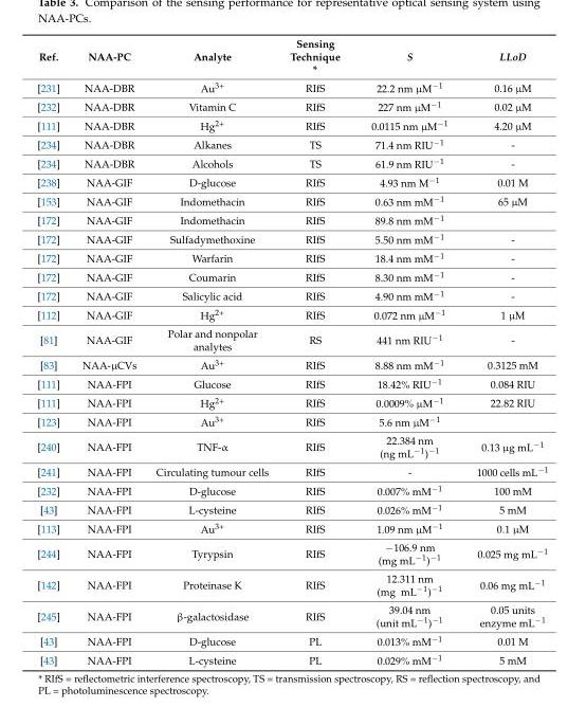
<table><thead><tr><td>Ref.</td><td>NAA-PC</td><td>Analyte</td><td>Sensing Technique *</td><td>S</td><td>LLoD</td></tr></thead><tbody><tr><td>[231]</td><td>NAA-DBR</td><td>Au<sup>3+</sup></td><td>RIfS</td><td>22.2 nm µM<sup>−1</sup></td><td>0.16 µM</td></tr><tr><td>[232]</td><td>NAA-DBR</td><td>Vitamin C</td><td>RIfS</td><td>227 nm µM<sup>−1</sup></td><td>0.02 µM</td></tr><tr><td>[111]</td><td>NAA-DBR</td><td>Hg<sup>2+</sup></td><td>RIfS</td><td>0.0115 nm µM<sup>−1</sup></td><td>4.20 µM</td></tr><tr><td>[234]</td><td>NAA-DBR</td><td>Alkanes</td><td>TS</td><td>71.4 nm RIU<sup>−1</sup></td><td>-</td></tr><tr><td>[234]</td><td>NAA-DBR</td><td>Alcohols</td><td>TS</td><td>61.9 nm RIU<sup>−1</sup></td><td>-</td></tr><tr><td>[238]</td><td>NAA-GIF</td><td>D-glucose</td><td>RIfS</td><td>4.93 nm M<sup>−1</sup></td><td>0.01 M</td></tr><tr><td>[153]</td><td>NAA-GIF</td><td>Indomethacin</td><td>RIfS</td><td>0.63 nm mM<sup>−1</sup></td><td>65 µM</td></tr><tr><td>[172]</td><td>NAA-GIF</td><td>Indomethacin</td><td>RIfS</td><td>89.8 nm mM<sup>−1</sup></td><td></td></tr><tr><td>[172]</td><td>NAA-GIF</td><td>Sulfadymethoxine</td><td>RIfS</td><td>5.50 nm mM<sup>−1</sup></td><td>-</td></tr><tr><td>[172]</td><td>NAA-GIF</td><td>Warfarin</td><td>RIfS</td><td>18.4 nm mM<sup>−1</sup></td><td>-</td></tr><tr><td>[172]</td><td>NAA-GIF</td><td>Coumarin</td><td>RIfS</td><td>8.30 nm mM<sup>−1</sup></td><td>-</td></tr><tr><td>[172]</td><td>NAA-GIF</td><td>Salicylic acid</td><td>RIfS</td><td>4.90 nm mM<sup>−1</sup></td><td>-</td></tr><tr><td>[112]</td><td>NAA-GIF</td><td>Hg<sup>2+</sup></td><td>RIfS</td><td>0.072 nm µM<sup>−1</sup></td><td>1 µM</td></tr><tr><td>[81]</td><td>NAA-GIF</td><td>Polar and nonpolar analytes</td><td>RS</td><td>441 nm RIU<sup>−1</sup></td><td>-</td></tr><tr><td>[83]</td><td>NAA-µCVs</td><td>Au<sup>3+</sup></td><td>RIfS</td><td>8.88 nm mM<sup>−1</sup></td><td>0.3125 mM</td></tr><tr><td>[111]</td><td>NAA-FPI</td><td>Glucose</td><td>RIfS</td><td>18.42% RIU<sup>−1</sup></td><td>0.084 RIU</td></tr><tr><td>[111]</td><td>NAA-FPI</td><td>Hg<sup>2+</sup></td><td>RIfS</td><td>0.0009% µM<sup>−1</sup></td><td>22.82 RIU</td></tr><tr><td>[123]</td><td>NAA-FPI</td><td>Au<sup>3+</sup></td><td>RIfS</td><td>5.6 nm µM<sup>−1</sup></td><td></td></tr><tr><td>[240]</td><td>NAA-FPI</td><td>TNF-α</td><td>RIfS</td><td>22.384 nm (ng mL<sup>−1</sup>)<sup>−1</sup></td><td>0.13 µg mL<sup>−1</sup></td></tr><tr><td>[241]</td><td>NAA-FPI</td><td>Circulating tumour cells</td><td>RIfS</td><td>-</td><td>1000 cells mL<sup>−1</sup></td></tr><tr><td>[232]</td><td>NAA-FPI</td><td>D-glucose</td><td>RIfS</td><td>0.007% mM<sup>−1</sup></td><td>100 mM</td></tr><tr><td>[43]</td><td>NAA-FPI</td><td>L-cysteine</td><td>RIfS</td><td>0.026% mM<sup>−1</sup></td><td>5 mM</td></tr><tr><td>[113]</td><td>NAA-FPI</td><td>Au<sup>3+</sup></td><td>RIfS</td><td>1.09 nm µM<sup>−1</sup></td><td>0.1 µM</td></tr><tr><td>[244]</td><td>NAA-FPI</td><td>Tyrypsin</td><td>RIfS</td><td>−106.9 nm (mg mL<sup>−1</sup>)<sup>−1</sup></td><td>0.025 mg mL<sup>−1</sup></td></tr><tr><td>[142]</td><td>NAA-FPI</td><td>Proteinase K</td><td>RIfS</td><td>12.311 nm (mg mL<sup>−1</sup>)<sup>−1</sup></td><td>0.06 mg mL<sup>−1</sup></td></tr><tr><td>[245]</td><td>NAA-FPI</td><td>β-galactosidase</td><td>RIfS</td><td>39.04 nm (unit mL<sup>−1</sup>)<sup>−1</sup></td><td>0.05 units enzyme mL<sup>−1</sup></td></tr><tr><td>[43]</td><td>NAA-FPI</td><td>D-glucose</td><td>PL</td><td>0.013% mM<sup>−1</sup></td><td>0.01 M</td></tr><tr><td>[43]</td><td>NAA-FPI</td><td>L-cysteine</td><td>PL</td><td>0.029% mM<sup>−1</sup></td><td>5 mM</td></tr></tbody></table>